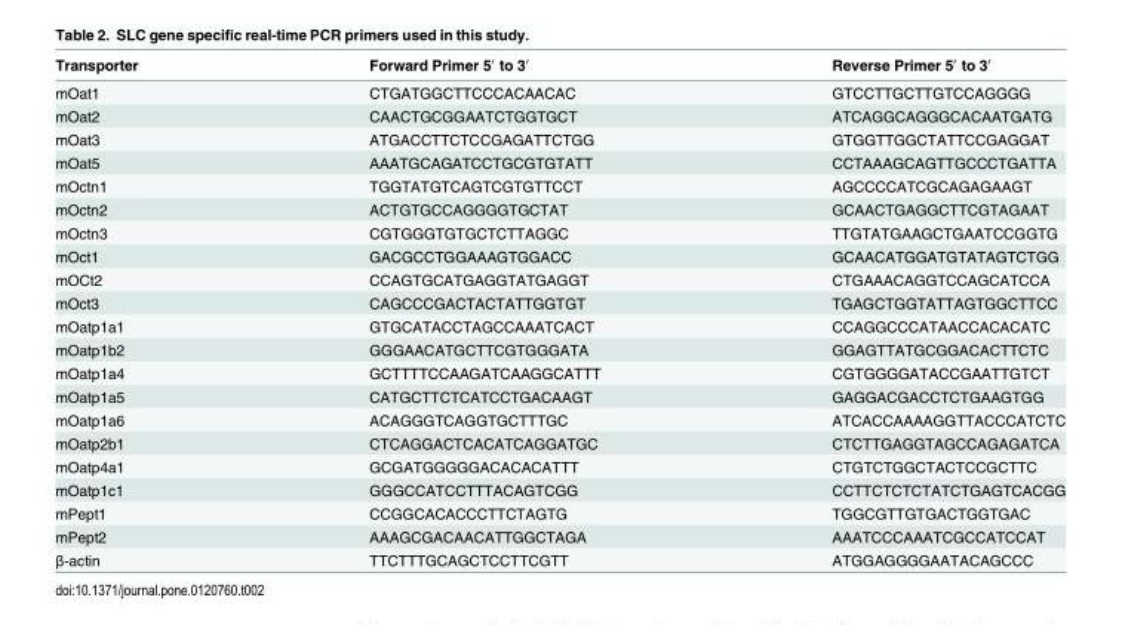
<table><thead><tr><td>Transporter</td><td>Forward Primer 5′ to 3′</td><td>Reverse Primer 5′ to 3′</td></tr></thead><tbody><tr><td>mOat1</td><td>CTGATGGCTTCCCACAACAC</td><td>GTCCTTGCTTGTCCAGGGG</td></tr><tr><td>mOat2</td><td>CAACTGCGGAATCTGGTGCT</td><td>ATCAGGCAGGGCACAATGATG</td></tr><tr><td>mOat3</td><td>ATGACCTTCTCCGAGATTCTGG</td><td>GTGGTTGGCTATTCCGAGGAT</td></tr><tr><td>mOat5</td><td>AAATGCAGATCCTGCGTGTATT</td><td>CCTAAAGCAGTTGCCCTGATTA</td></tr><tr><td>mOctn1</td><td>TGGTATGTCAGTCGTGTTCCT</td><td>AGCCCCATCGCAGAGAAGT</td></tr><tr><td>mOctn2</td><td>ACTGTGCCAGGGGTGCTAT</td><td>GCAACTGAGGCTTCGTAGAAT</td></tr><tr><td>mOctn3</td><td>CGTGGGTGTGCTCTTAGGC</td><td>TTGTATGAAGCTGAATCCGGTG</td></tr><tr><td>mOct1</td><td>GACGCCTGGAAAGTGGACC</td><td>GCAACATGGATGTATAGTCTGG</td></tr><tr><td>mOCt2</td><td>CCAGTGCATGAGGTATGAGGT</td><td>CTGAAACAGGTCCAGCATCCA</td></tr><tr><td>mOct3</td><td>CAGCCCGACTACTATTGGTGT</td><td>TGAGCTGGTATTAGTGGCTTCC</td></tr><tr><td>mOatp1a1</td><td>GTGCATACCTAGCCAAATCACT</td><td>CCAGGCCCATAACCACACATC</td></tr><tr><td>mOatp1b2</td><td>GGGAACATGCTTCGTGGGATA</td><td>GGAGTTATGCGGACACTTCTC</td></tr><tr><td>mOatp1a4</td><td>GCTTTTCCAAGATCAAGGCATTT</td><td>CGTGGGGATACCGAATTGTCT</td></tr><tr><td>mOatp1a5</td><td>CATGCTTCTCATCCTGACAAGT</td><td>GAGGACGACCTCTGAAGTGG</td></tr><tr><td>mOatp1a6</td><td>ACAGGGTCAGGTGCTTTGC</td><td>ATCACCAAAAGGTTACCCATCTC</td></tr><tr><td>mOatp2b1</td><td>CTCAGGACTCACATCAGGATGC</td><td>CTCTTGAGGTAGCCAGAGATCA</td></tr><tr><td>mOatp4a1</td><td>GCGATGGGGGACACACATTT</td><td>CTGTCTGGCTACTCCGCTTC</td></tr><tr><td>mOatp1c1</td><td>GGGCCATCCTTTACAGTCGG</td><td>CCTTCTCTCTATCTGAGTCACGG</td></tr><tr><td>mPept1</td><td>CCGGCACACCCTTCTAGTG</td><td>TGGCGTTGTGACTGGTGAC</td></tr><tr><td>mPept2</td><td>AAAGCGACAACATTGGCTAGA</td><td>AAATCCCAAATCGCCATCCAT</td></tr><tr><td>β-actin</td><td>TTCTTTGCAGCTCCTTCGTT</td><td>ATGGAGGGGAATACAGCCC</td></tr></tbody></table>